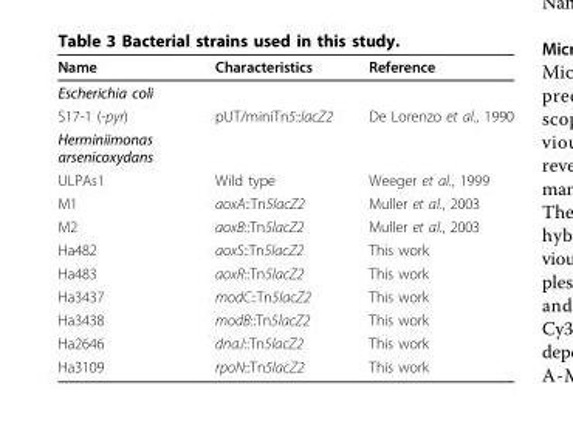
<table><thead><tr><td>Name</td><td>Characteristics</td><td>Reference</td></tr></thead><tbody><tr><td colspan="3">Escherichia coli</td></tr><tr><td>S17-1 (-pyr)</td><td>pUT/miniTn5::lacZ2</td><td>De Lorenzo et al., 1990</td></tr><tr><td colspan="3">Herminiimonas arsenicoxydans</td></tr><tr><td>ULPAs1</td><td>Wild type</td><td>Weeger et al., 1999</td></tr><tr><td>M1</td><td>aoxA::Tn5lacZ2</td><td>Muller et al., 2003</td></tr><tr><td>M2</td><td>aoxB::Tn5lacZ2</td><td>Muller et al., 2003</td></tr><tr><td>Ha482</td><td>aoxS::Tn5lacZ2</td><td>This work</td></tr><tr><td>Ha483</td><td>aoxR::Tn5lacZ2</td><td>This work</td></tr><tr><td>Ha3437</td><td>modC::Tn5lacZ2</td><td>This work</td></tr><tr><td>Ha3438</td><td>modB::Tn5lacZ2</td><td>This work</td></tr><tr><td>Ha2646</td><td>dnaJ::Tn5lacZ2</td><td>This work</td></tr><tr><td>Ha3109</td><td>rpoN::Tn5lacZ2</td><td>This work</td></tr></tbody></table>